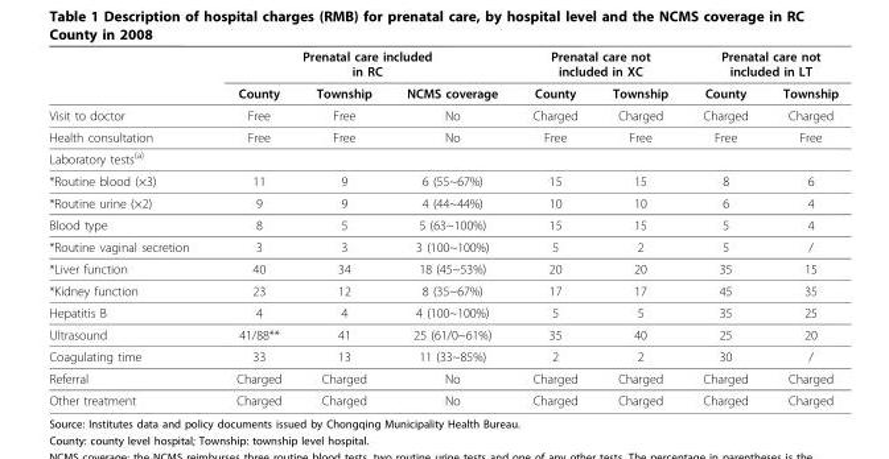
<table><thead><tr><td rowspan="2"></td><td colspan="3">Prenatal care included in RC</td><td colspan="2">Prenatal care not included in XC</td><td colspan="2">Prenatal care not included in LT</td></tr><tr><td>County</td><td>Township</td><td>NCMS coverage</td><td>County</td><td>Township</td><td>County</td><td>Township</td></tr></thead><tbody><tr><td>Visit to doctor</td><td>Free</td><td>Free</td><td>No</td><td>Charged</td><td>Charged</td><td>Charged</td><td>Charged</td></tr><tr><td>Health consultation</td><td>Free</td><td>Free</td><td>No</td><td>Free</td><td>Free</td><td>Free</td><td>Free</td></tr><tr><td colspan="8">Laboratory tests<sup>(a)</sup></td></tr><tr><td>*Routine blood (×3)</td><td>11</td><td>9</td><td>6 (55~67%)</td><td>15</td><td>15</td><td>8</td><td>6</td></tr><tr><td>*Routine urine (×2)</td><td>9</td><td>9</td><td>4 (44~44%)</td><td>10</td><td>10</td><td>6</td><td>4</td></tr><tr><td>Blood type</td><td>8</td><td>5</td><td>5 (63~100%)</td><td>15</td><td>15</td><td>5</td><td>4</td></tr><tr><td>*Routine vaginal secretion</td><td>3</td><td>3</td><td>3 (100~100%)</td><td>5</td><td>2</td><td>5</td><td>/</td></tr><tr><td>*Liver function</td><td>40</td><td>34</td><td>18 (45~53%)</td><td>20</td><td>20</td><td>35</td><td>15</td></tr><tr><td>*Kidney function</td><td>23</td><td>12</td><td>8 (35~67%)</td><td>17</td><td>17</td><td>45</td><td>35</td></tr><tr><td>Hepatitis B</td><td>4</td><td>4</td><td>4 (100~100%)</td><td>5</td><td>5</td><td>35</td><td>25</td></tr><tr><td>Ultrasound</td><td>41/88**</td><td>41</td><td>25 (61/0~61%)</td><td>35</td><td>40</td><td>25</td><td>20</td></tr><tr><td>Coagulating time</td><td>33</td><td>13</td><td>11 (33~85%)</td><td>2</td><td>2</td><td>30</td><td>/</td></tr><tr><td>Referral</td><td>Charged</td><td>Charged</td><td>No</td><td>Charged</td><td>Charged</td><td>Charged</td><td>Charged</td></tr><tr><td>Other treatment</td><td>Charged</td><td>Charged</td><td>No</td><td>Charged</td><td>Charged</td><td>Charged</td><td>Charged</td></tr></tbody></table>